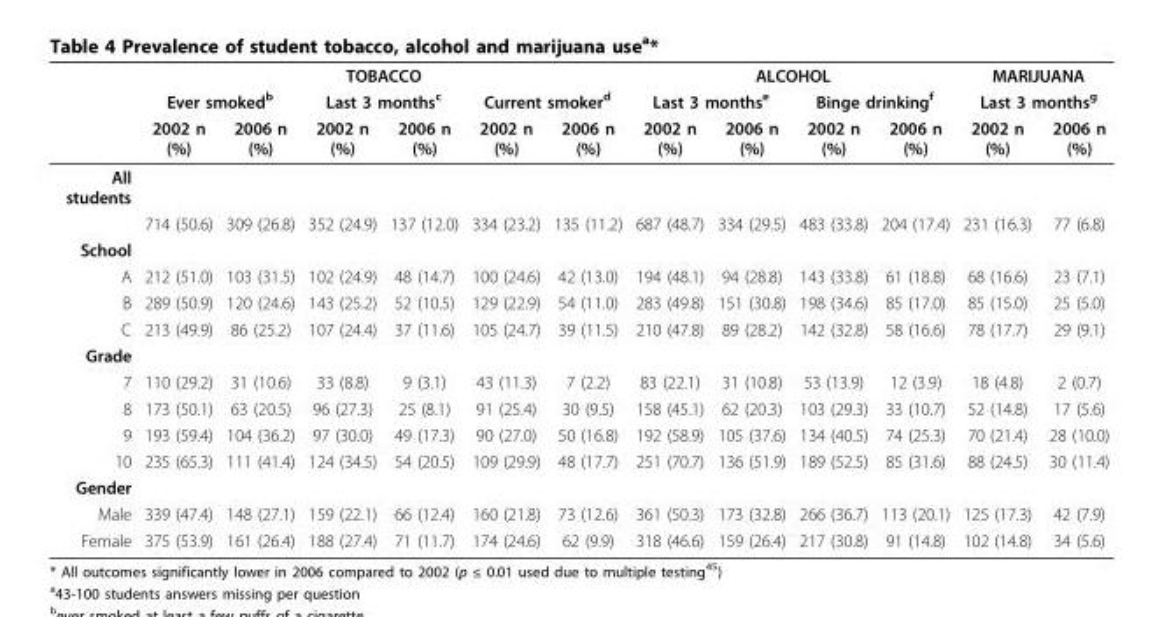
<table><thead><tr><td rowspan="3"></td><td colspan="6">TOBACCO</td><td colspan="4">ALCOHOL</td><td rowspan="2" colspan="2">MARIJUANA Last 3 months<sup>g</sup></td></tr><tr><td colspan="2">Ever smoked<sup>b</sup></td><td colspan="2">Last 3 months<sup>c</sup></td><td colspan="2">Current smoker<sup>d</sup></td><td colspan="2">Last 3 months<sup>e</sup></td><td colspan="2">Binge drinking<sup>f</sup></td></tr><tr><td>2002 n (%)</td><td>2006 n (%)</td><td>2002 n (%)</td><td>2006 n (%)</td><td>2002 n (%)</td><td>2006 n (%)</td><td>2002 n (%)</td><td>2006 n (%)</td><td>2002 n (%)</td><td>2006 n (%)</td><td>2002 n (%)</td><td>2006 n (%)</td></tr></thead><tbody><tr><td colspan="13">All students</td></tr><tr><td></td><td>714 (50.6)</td><td>309 (26.8)</td><td>352 (24.9)</td><td>137 (12.0)</td><td>334 (23.2)</td><td>135 (11.2)</td><td>687 (48.7)</td><td>334 (29.5)</td><td>483 (33.8)</td><td>204 (17.4)</td><td>231 (16.3)</td><td>77 (6.8)</td></tr><tr><td colspan="13">School</td></tr><tr><td>A</td><td>212 (51.0)</td><td>103 (31.5)</td><td>102 (24.9)</td><td>48 (14.7)</td><td>100 (24.6)</td><td>42 (13.0)</td><td>194 (48.1)</td><td>94 (28.8)</td><td>143 (33.8)</td><td>61 (18.8)</td><td>68 (16.6)</td><td>23 (7.1)</td></tr><tr><td>B</td><td>289 (50.9)</td><td>120 (24.6)</td><td>143 (25.2)</td><td>52 (10.5)</td><td>129 (22.9)</td><td>54 (11.0)</td><td>283 (49.8)</td><td>151 (30.8)</td><td>198 (34.6)</td><td>85 (17.0)</td><td>85 (15.0)</td><td>25 (5.0)</td></tr><tr><td>C</td><td>213 (49.9)</td><td>86 (25.2)</td><td>107 (24.4)</td><td>37 (11.6)</td><td>105 (24.7)</td><td>39 (11.5)</td><td>210 (47.8)</td><td>89 (28.2)</td><td>142 (32.8)</td><td>58 (16.6)</td><td>78 (17.7)</td><td>29 (9.1)</td></tr><tr><td colspan="13">Grade</td></tr><tr><td>7</td><td>110 (29.2)</td><td>31 (10.6)</td><td>33 (8.8)</td><td>9 (3.1)</td><td>43 (11.3)</td><td>7 (2.2)</td><td>83 (22.1)</td><td>31 (10.8)</td><td>53 (13.9)</td><td>12 (3.9)</td><td>18 (4.8)</td><td>2 (0.7)</td></tr><tr><td>8</td><td>173 (50.1)</td><td>63 (20.5)</td><td>96 (27.3)</td><td>25 (8.1)</td><td>91 (25.4)</td><td>30 (9.5)</td><td>158 (45.1)</td><td>62 (20.3)</td><td>103 (29.3)</td><td>33 (10.7)</td><td>52 (14.8)</td><td>17 (5.6)</td></tr><tr><td>9</td><td>193 (59.4)</td><td>104 (36.2)</td><td>97 (30.0)</td><td>49 (17.3)</td><td>90 (27.0)</td><td>50 (16.8)</td><td>192 (58.9)</td><td>105 (37.6)</td><td>134 (40.5)</td><td>74 (25.3)</td><td>70 (21.4)</td><td>28 (10.0)</td></tr><tr><td>10</td><td>235 (65.3)</td><td>111 (41.4)</td><td>124 (34.5)</td><td>54 (20.5)</td><td>109 (29.9)</td><td>48 (17.7)</td><td>251 (70.7)</td><td>136 (51.9)</td><td>189 (52.5)</td><td>85 (31.6)</td><td>88 (24.5)</td><td>30 (11.4)</td></tr><tr><td colspan="13">Gender</td></tr><tr><td>Male</td><td>339 (47.4)</td><td>148 (27.1)</td><td>159 (22.1)</td><td>66 (12.4)</td><td>160 (21.8)</td><td>73 (12.6)</td><td>361 (50.3)</td><td>173 (32.8)</td><td>266 (36.7)</td><td>113 (20.1)</td><td>125 (17.3)</td><td>42 (7.9)</td></tr><tr><td>Female</td><td>375 (53.9)</td><td>161 (26.4)</td><td>188 (27.4)</td><td>71 (11.7)</td><td>174 (24.6)</td><td>62 (9.9)</td><td>318 (46.6)</td><td>159 (26.4)</td><td>217 (30.8)</td><td>91 (14.8)</td><td>102 (14.8)</td><td>34 (5.6)</td></tr></tbody></table>